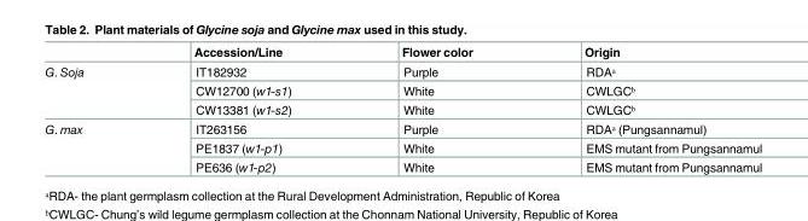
<table><thead><tr><td></td><td>Accession/Line</td><td>Flower color</td><td>Origin</td></tr></thead><tbody><tr><td rowspan="3">G. Soja</td><td>IT182932</td><td>Purple</td><td>RDAᵃ</td></tr><tr><td>CW12700 (w1-s1)</td><td>White</td><td>CWLGCᵇ</td></tr><tr><td>CW13381 (w1-s2)</td><td>White</td><td>CWLGCᵇ</td></tr><tr><td rowspan="3">G. max</td><td>IT263156</td><td>Purple</td><td>RDAᵃ (Pungsannamul)</td></tr><tr><td>PE1837 (w1-p1)</td><td>White</td><td>EMS mutant from Pungsannamul</td></tr><tr><td>PE636 (w1-p2)</td><td>White</td><td>EMS mutant from Pungsannamul</td></tr></tbody></table>